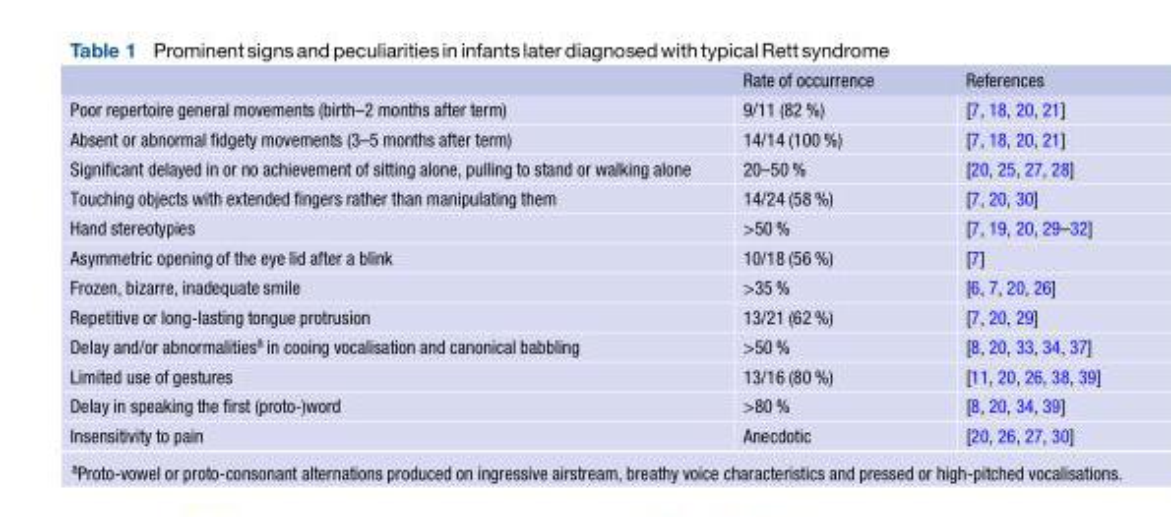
<table><thead><tr><td></td><td>Rate of occurrence</td><td>References</td></tr></thead><tbody><tr><td>Poor repertoire general movements (birth–2 months after term)</td><td>9/11 (82 %)</td><td>[7, 18, 20, 21]</td></tr><tr><td>Absent or abnormal fidgety movements (3–5 months after term)</td><td>14/14 (100 %)</td><td>[7, 18, 20, 21]</td></tr><tr><td>Significant delayed in or no achievement of sitting alone, pulling to stand or walking alone</td><td>20–50 %</td><td>[20, 25, 27, 28]</td></tr><tr><td>Touching objects with extended fingers rather than manipulating them</td><td>14/24 (58 %)</td><td>[7, 20, 30]</td></tr><tr><td>Hand stereotypies</td><td>&gt;50 %</td><td>[7, 19, 20, 29–32]</td></tr><tr><td>Asymmetric opening of the eye lid after a blink</td><td>10/18 (56 %)</td><td>[7]</td></tr><tr><td>Frozen, bizarre, inadequate smile</td><td>&gt;35 %</td><td>[6, 7, 20, 26]</td></tr><tr><td>Repetitive or long-lasting tongue protrusion</td><td>13/21 (62 %)</td><td>[7, 20, 29]</td></tr><tr><td>Delay and/or abnormalities<sup>a</sup> in cooing vocalisation and canonical babbling</td><td>&gt;50 %</td><td>[8, 20, 33, 34, 37]</td></tr><tr><td>Limited use of gestures</td><td>13/16 (80 %)</td><td>[11, 20, 26, 38, 39]</td></tr><tr><td>Delay in speaking the first (proto-)word</td><td>&gt;80 %</td><td>[8, 20, 34, 39]</td></tr><tr><td>Insensitivity to pain</td><td>Anecdotic</td><td>[20, 26, 27, 30]</td></tr></tbody></table>